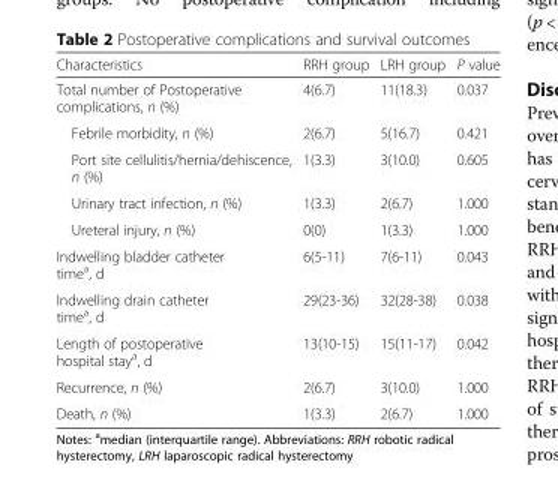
<table><thead><tr><td>Characteristics</td><td>RRH group</td><td>LRH group</td><td>P value</td></tr></thead><tbody><tr><td>Total number of Postoperative complications, n (%)</td><td>4(6.7)</td><td>11(18.3)</td><td>0.037</td></tr><tr><td>Febrile morbidity, n (%)</td><td>2(6.7)</td><td>5(16.7)</td><td>0.421</td></tr><tr><td>Port site cellulitis/hernia/dehiscence, n (%)</td><td>1(3.3)</td><td>3(10.0)</td><td>0.605</td></tr><tr><td>Urinary tract infection, n (%)</td><td>1(3.3)</td><td>2(6.7)</td><td>1.000</td></tr><tr><td>Ureteral injury, n (%)</td><td>0(0)</td><td>1(3.3)</td><td>1.000</td></tr><tr><td>Indwelling bladder catheter time<sup>a</sup>, d</td><td>6(5-11)</td><td>7(6-11)</td><td>0.043</td></tr><tr><td>Indwelling drain catheter time<sup>a</sup>, d</td><td>29(23-36)</td><td>32(28-38)</td><td>0.038</td></tr><tr><td>Length of postoperative hospital stay<sup>a</sup>, d</td><td>13(10-15)</td><td>15(11-17)</td><td>0.042</td></tr><tr><td>Recurrence, n (%)</td><td>2(6.7)</td><td>3(10.0)</td><td>1.000</td></tr><tr><td>Death, n (%)</td><td>1(3.3)</td><td>2(6.7)</td><td>1.000</td></tr></tbody></table>